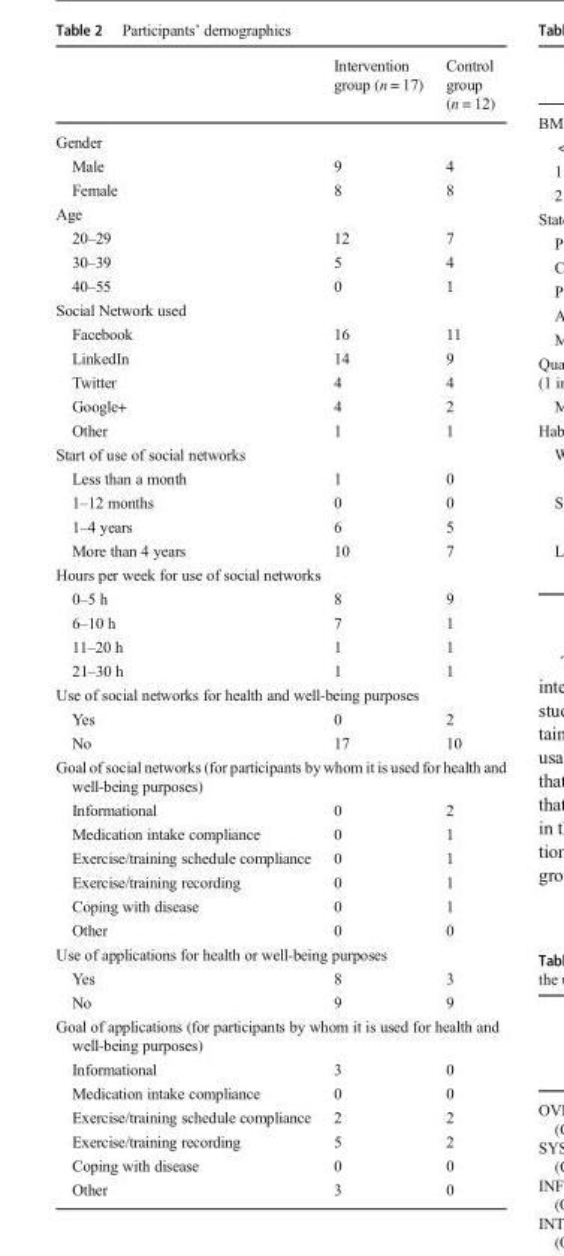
<table><thead><tr><td></td><td>Intervention group (n = 17)</td><td>Control group (n = 12)</td></tr></thead><tbody><tr><td colspan="3">Gender</td></tr><tr><td>Male</td><td>9</td><td>4</td></tr><tr><td>Female</td><td>8</td><td>8</td></tr><tr><td colspan="3">Age</td></tr><tr><td>20–29</td><td>12</td><td>7</td></tr><tr><td>30–39</td><td>5</td><td>4</td></tr><tr><td>40–55</td><td>0</td><td>1</td></tr><tr><td colspan="3">Social Network used</td></tr><tr><td>Facebook</td><td>16</td><td>11</td></tr><tr><td>LinkedIn</td><td>14</td><td>9</td></tr><tr><td>Twitter</td><td>4</td><td>4</td></tr><tr><td>Google+</td><td>4</td><td>2</td></tr><tr><td>Other</td><td>1</td><td>1</td></tr><tr><td colspan="3">Start of use of social networks</td></tr><tr><td>Less than a month</td><td>1</td><td>0</td></tr><tr><td>1–12 months</td><td>0</td><td>0</td></tr><tr><td>1–4 years</td><td>6</td><td>5</td></tr><tr><td>More than 4 years</td><td>10</td><td>7</td></tr><tr><td colspan="3">Hours per week for use of social networks</td></tr><tr><td>0–5 h</td><td>8</td><td>9</td></tr><tr><td>6–10 h</td><td>7</td><td>1</td></tr><tr><td>11–20 h</td><td>1</td><td>1</td></tr><tr><td>21–30 h</td><td>1</td><td>1</td></tr><tr><td colspan="3">Use of social networks for health and well-being purposes</td></tr><tr><td>Yes</td><td>0</td><td>2</td></tr><tr><td>No</td><td>17</td><td>10</td></tr><tr><td colspan="3">Goal of social networks (for participants by whom it is used for health and well-being purposes)</td></tr><tr><td>Informational</td><td>0</td><td>2</td></tr><tr><td>Medication intake compliance</td><td>0</td><td>1</td></tr><tr><td>Exercise/training schedule compliance</td><td>0</td><td>1</td></tr><tr><td>Exercise/training recording</td><td>0</td><td>1</td></tr><tr><td>Coping with disease</td><td>0</td><td>1</td></tr><tr><td>Other</td><td>0</td><td>0</td></tr><tr><td colspan="3">Use of applications for health or well-being purposes</td></tr><tr><td>Yes</td><td>8</td><td>3</td></tr><tr><td>No</td><td>9</td><td>9</td></tr><tr><td colspan="3">Goal of applications (for participants by whom it is used for health and well-being purposes)</td></tr><tr><td>Informational</td><td>3</td><td>0</td></tr><tr><td>Medication intake compliance</td><td>0</td><td>0</td></tr><tr><td>Exercise/training schedule compliance</td><td>2</td><td>2</td></tr><tr><td>Exercise/training recording</td><td>5</td><td>2</td></tr><tr><td>Coping with disease</td><td>0</td><td>0</td></tr><tr><td>Other</td><td>3</td><td>0</td></tr></tbody></table>